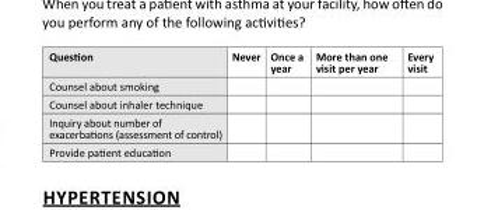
<table><thead><tr><td>Question</td><td>Never</td><td>Once a year</td><td>More than one visit per year</td><td>Every visit</td></tr></thead><tbody><tr><td colspan="5">Counsel about smoking</td></tr><tr><td colspan="5">Counsel about inhaler technique</td></tr><tr><td colspan="5">Inquiry about number of exacerbations (assessment of control)</td></tr><tr><td>Provide patient education</td><td></td><td></td><td></td><td></td></tr></tbody></table>